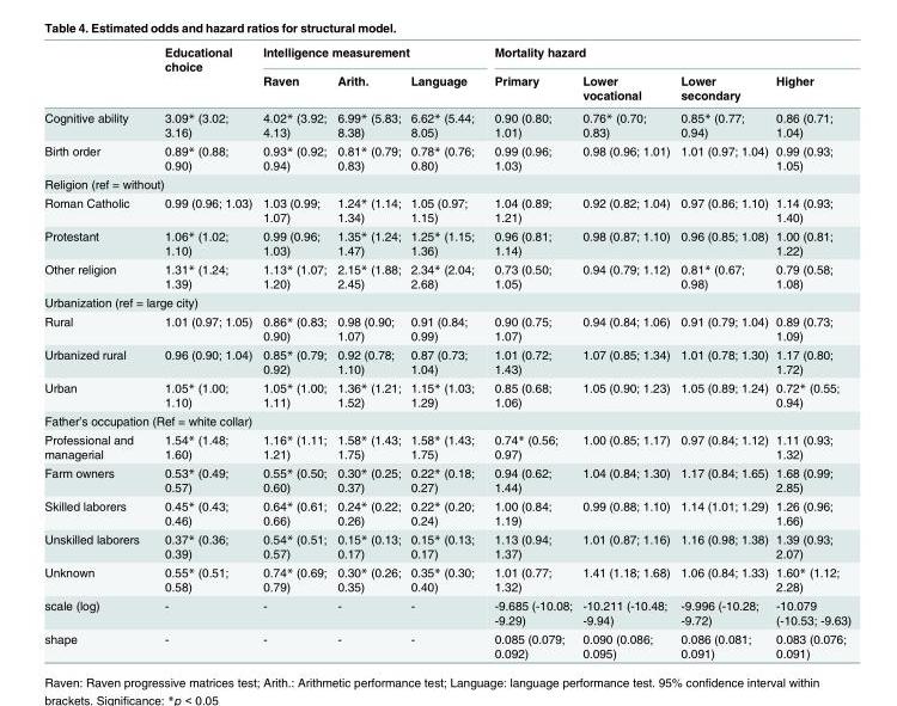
<table><thead><tr><td rowspan="2"></td><td rowspan="2">Educational choice</td><td colspan="3">Intelligence measurement</td><td colspan="4">Mortality hazard</td></tr><tr><td>Raven</td><td>Arith.</td><td>Language</td><td>Primary</td><td>Lower vocational</td><td>Lower secondary</td><td>Higher</td></tr></thead><tbody><tr><td>Cognitive ability</td><td>3.09* (3.02; 3.16)</td><td>4.02* (3.92; 4.13)</td><td>6.99* (5.83; 8.38)</td><td>6.62* (5.44; 8.05)</td><td>0.90 (0.80; 1.01)</td><td>0.76* (0.70; 0.83)</td><td>0.85* (0.77; 0.94)</td><td>0.86 (0.71; 1.04)</td></tr><tr><td>Birth order</td><td>0.89* (0.88; 0.90)</td><td>0.93* (0.92; 0.94)</td><td>0.81* (0.79; 0.83)</td><td>0.78* (0.76; 0.80)</td><td>0.99 (0.96; 1.03)</td><td>0.98 (0.96; 1.01)</td><td>1.01 (0.97; 1.04)</td><td>0.99 (0.93; 1.05)</td></tr><tr><td colspan="9">Religion (ref = without)</td></tr><tr><td>Roman Catholic</td><td>0.99 (0.96; 1.03)</td><td>1.03 (0.99; 1.07)</td><td>1.24* (1.14; 1.34)</td><td>1.05 (0.97; 1.15)</td><td>1.04 (0.89; 1.21)</td><td>0.92 (0.82; 1.04)</td><td>0.97 (0.86; 1.10)</td><td>1.14 (0.93; 1.40)</td></tr><tr><td>Protestant</td><td>1.06* (1.02; 1.10)</td><td>0.99 (0.96; 1.03)</td><td>1.35* (1.24; 1.47)</td><td>1.25* (1.15; 1.36)</td><td>0.96 (0.81; 1.14)</td><td>0.98 (0.87; 1.10)</td><td>0.96 (0.85; 1.08)</td><td>1.00 (0.81; 1.22)</td></tr><tr><td>Other religion</td><td>1.31* (1.24; 1.39)</td><td>1.13* (1.07; 1.20)</td><td>2.15* (1.88; 2.45)</td><td>2.34* (2.04; 2.68)</td><td>0.73 (0.50; 1.05)</td><td>0.94 (0.79; 1.12)</td><td>0.81* (0.67; 0.98)</td><td>0.79 (0.58; 1.08)</td></tr><tr><td colspan="9">Urbanization (ref = large city)</td></tr><tr><td>Rural</td><td>1.01 (0.97; 1.05)</td><td>0.86* (0.83; 0.90)</td><td>0.98 (0.90; 1.07)</td><td>0.91 (0.84; 0.99)</td><td>0.90 (0.75; 1.07)</td><td>0.94 (0.84; 1.06)</td><td>0.91 (0.79; 1.04)</td><td>0.89 (0.73; 1.09)</td></tr><tr><td>Urbanized rural</td><td>0.96 (0.90; 1.04)</td><td>0.85* (0.79; 0.92)</td><td>0.92 (0.78; 1.10)</td><td>0.87 (0.73; 1.04)</td><td>1.01 (0.72; 1.43)</td><td>1.07 (0.85; 1.34)</td><td>1.01 (0.78; 1.30)</td><td>1.17 (0.80; 1.72)</td></tr><tr><td>Urban</td><td>1.05* (1.00; 1.10)</td><td>1.05* (1.00; 1.11)</td><td>1.36* (1.21; 1.52)</td><td>1.15* (1.03; 1.29)</td><td>0.85 (0.68; 1.06)</td><td>1.05 (0.90; 1.23)</td><td>1.05 (0.89; 1.24)</td><td>0.72* (0.55; 0.94)</td></tr><tr><td colspan="9">Father’s occupation (Ref = white collar)</td></tr><tr><td>Professional and managerial</td><td>1.54* (1.48; 1.60)</td><td>1.16* (1.11; 1.21)</td><td>1.58* (1.43; 1.75)</td><td>1.58* (1.43; 1.75)</td><td>0.74* (0.56; 0.97)</td><td>1.00 (0.85; 1.17)</td><td>0.97 (0.84; 1.12)</td><td>1.11 (0.93; 1.32)</td></tr><tr><td>Farm owners</td><td>0.53* (0.49; 0.57)</td><td>0.55* (0.50; 0.60)</td><td>0.30* (0.25; 0.37)</td><td>0.22* (0.18; 0.27)</td><td>0.94 (0.62; 1.44)</td><td>1.04 (0.84; 1.30)</td><td>1.17 (0.84; 1.65)</td><td>1.68 (0.99; 2.85)</td></tr><tr><td>Skilled laborers</td><td>0.45* (0.43; 0.46)</td><td>0.64* (0.61; 0.66)</td><td>0.24* (0.22; 0.26)</td><td>0.22* (0.20; 0.24)</td><td>1.00 (0.84; 1.19)</td><td>0.99 (0.88; 1.10)</td><td>1.14 (1.01; 1.29)</td><td>1.26 (0.96; 1.66)</td></tr><tr><td>Unskilled laborers</td><td>0.37* (0.36; 0.39)</td><td>0.54* (0.51; 0.57)</td><td>0.15* (0.13; 0.17)</td><td>0.15* (0.13; 0.17)</td><td>1.13 (0.94; 1.37)</td><td>1.01 (0.87; 1.16)</td><td>1.16 (0.98; 1.38)</td><td>1.39 (0.93; 2.07)</td></tr><tr><td>Unknown</td><td>0.55* (0.51; 0.58)</td><td>0.74* (0.69; 0.79)</td><td>0.30* (0.26; 0.35)</td><td>0.35* (0.30; 0.40)</td><td>1.01 (0.77; 1.32)</td><td>1.41 (1.18; 1.68)</td><td>1.06 (0.84; 1.33)</td><td>1.60* (1.12; 2.28)</td></tr><tr><td>scale (log)</td><td>-</td><td>-</td><td>-</td><td>-</td><td>-9.685 (-10.08; -9.29)</td><td>-10.211 (-10.48; -9.94)</td><td>-9.996 (-10.28; -9.72)</td><td>-10.079 (-10.53; -9.63)</td></tr><tr><td>shape</td><td>-</td><td>-</td><td>-</td><td>-</td><td>0.085 (0.079; 0.092)</td><td>0.090 (0.086; 0.095)</td><td>0.086 (0.081; 0.091)</td><td>0.083 (0.076; 0.091)</td></tr></tbody></table>